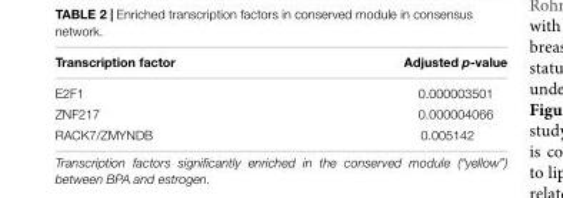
<table><thead><tr><td>Transcription factor</td><td>Adjusted p-value</td></tr></thead><tbody><tr><td>E2F1</td><td>0.000003501</td></tr><tr><td>ZNF217</td><td>0.000004066</td></tr><tr><td>RACK7/ZMYNDB</td><td>0.005142</td></tr></tbody></table>